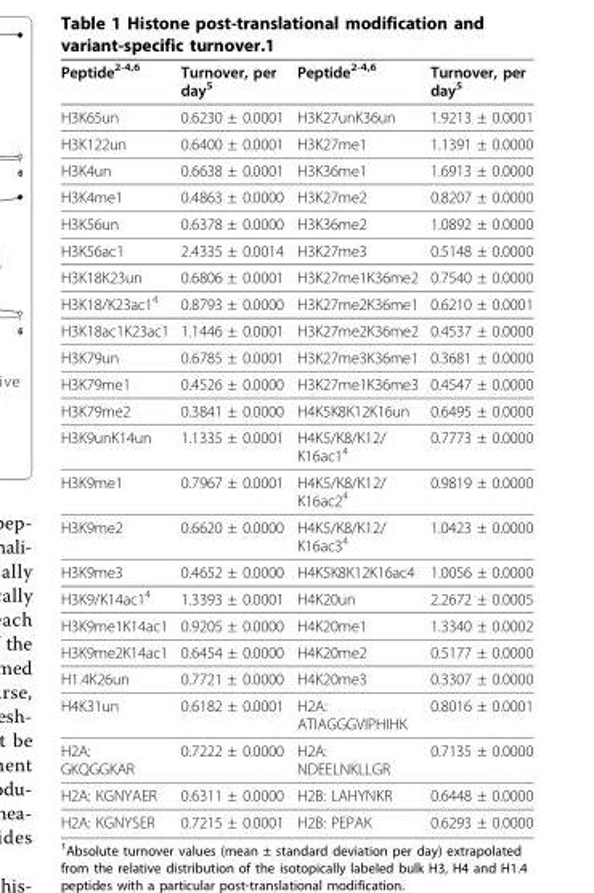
<table><thead><tr><td>Peptide2-4,6</td><td>Turnover, per day5</td><td>Peptide2-4,6</td><td>Turnover, per day5</td></tr></thead><tbody><tr><td>H3K65un</td><td>0.6230 ± 0.0001</td><td>H3K27unK36un</td><td>1.9213 ± 0.0001</td></tr><tr><td>H3K122un</td><td>0.6400 ± 0.0001</td><td>H3K27me1</td><td>1.1391 ± 0.0000</td></tr><tr><td>H3K4un</td><td>0.6638 ± 0.0001</td><td>H3K36me1</td><td>1.6913 ± 0.0000</td></tr><tr><td>H3K4me1</td><td>0.4863 ± 0.0000</td><td>H3K27me2</td><td>0.8207 ± 0.0000</td></tr><tr><td>H3K56un</td><td>0.6378 ± 0.0000</td><td>H3K36me2</td><td>1.0892 ± 0.0000</td></tr><tr><td>H3K56ac1</td><td>2.4335 ± 0.0014</td><td>H3K27me3</td><td>0.5148 ± 0.0000</td></tr><tr><td>H3K18K23un</td><td>0.6806 ± 0.0001</td><td>H3K27me1K36me2</td><td>0.7540 ± 0.0000</td></tr><tr><td>H3K18/K23ac14</td><td>0.8793 ± 0.0000</td><td>H3K27me2K36me1</td><td>0.6210 ± 0.0001</td></tr><tr><td>H3K18ac1K23ac1</td><td>1.1446 ± 0.0001</td><td>H3K27me2K36me2</td><td>0.4537 ± 0.0000</td></tr><tr><td>H3K79un</td><td>0.6785 ± 0.0001</td><td>H3K27me3K36me1</td><td>0.3681 ± 0.0000</td></tr><tr><td>H3K79me1</td><td>0.4526 ± 0.0000</td><td>H3K27me1K36me3</td><td>0.4547 ± 0.0000</td></tr><tr><td>H3K79me2</td><td>0.3841 ± 0.0000</td><td>H4K5K8K12K16un</td><td>0.6495 ± 0.0000</td></tr><tr><td>H3K9unK14un</td><td>1.1335 ± 0.0001</td><td>H4K5/K8/K12/ K16ac14</td><td>0.7773 ± 0.0000</td></tr><tr><td>H3K9me1</td><td>0.7967 ± 0.0001</td><td>H4K5/K8/K12/ K16ac24</td><td>0.9819 ± 0.0000</td></tr><tr><td>H3K9me2</td><td>0.6620 ± 0.0000</td><td>H4K5/K8/K12/ K16ac34</td><td>1.0423 ± 0.0000</td></tr><tr><td>H3K9me3</td><td>0.4652 ± 0.0000</td><td>H4K5K8K12K16ac4</td><td>1.0056 ± 0.0000</td></tr><tr><td>H3K9/K14ac14</td><td>1.3393 ± 0.0001</td><td>H4K20un</td><td>2.2672 ± 0.0005</td></tr><tr><td>H3K9me1K14ac1</td><td>0.9205 ± 0.0000</td><td>H4K20me1</td><td>1.3340 ± 0.0002</td></tr><tr><td>H3K9me2K14ac1</td><td>0.6454 ± 0.0000</td><td>H4K20me2</td><td>0.5177 ± 0.0000</td></tr><tr><td>H1.4K26un</td><td>0.7721 ± 0.0000</td><td>H4K20me3</td><td>0.3307 ± 0.0000</td></tr><tr><td>H4K31un</td><td>0.6182 ± 0.0001</td><td>H2A: ATIAGGGVIPHIHK</td><td>0.8016 ± 0.0001</td></tr><tr><td>H2A: GKQGGKAR</td><td>0.7222 ± 0.0000</td><td>H2A: NDEELNKLLGR</td><td>0.7135 ± 0.0000</td></tr><tr><td>H2A: KGNYAER</td><td>0.6311 ± 0.0000</td><td>H2B: LAHYNKR</td><td>0.6448 ± 0.0000</td></tr><tr><td>H2A: KGNYSER</td><td>0.7215 ± 0.0001</td><td>H2B: PEPAK</td><td>0.6293 ± 0.0000</td></tr></tbody></table>